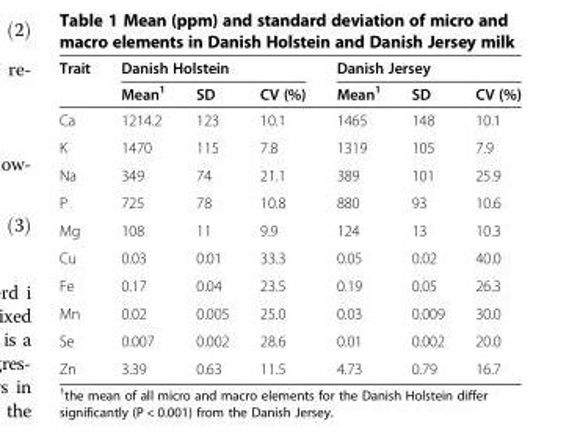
<table><thead><tr><td rowspan="2">Trait</td><td colspan="3">Danish Holstein</td><td colspan="3">Danish Jersey</td></tr><tr><td>Mean<sup>1</sup></td><td>SD</td><td>CV (%)</td><td>Mean<sup>1</sup></td><td>SD</td><td>CV (%)</td></tr></thead><tbody><tr><td>Ca</td><td>1214.2</td><td>123</td><td>10.1</td><td>1465</td><td>148</td><td>10.1</td></tr><tr><td>K</td><td>1470</td><td>115</td><td>7.8</td><td>1319</td><td>105</td><td>7.9</td></tr><tr><td>Na</td><td>349</td><td>74</td><td>21.1</td><td>389</td><td>101</td><td>25.9</td></tr><tr><td>P</td><td>725</td><td>78</td><td>10.8</td><td>880</td><td>93</td><td>10.6</td></tr><tr><td>Mg</td><td>108</td><td>11</td><td>9.9</td><td>124</td><td>13</td><td>10.3</td></tr><tr><td>Cu</td><td>0.03</td><td>0.01</td><td>33.3</td><td>0.05</td><td>0.02</td><td>40.0</td></tr><tr><td>Fe</td><td>0.17</td><td>0.04</td><td>23.5</td><td>0.19</td><td>0.05</td><td>26.3</td></tr><tr><td>Mn</td><td>0.02</td><td>0.005</td><td>25.0</td><td>0.03</td><td>0.009</td><td>30.0</td></tr><tr><td>Se</td><td>0.007</td><td>0.002</td><td>28.6</td><td>0.01</td><td>0.002</td><td>20.0</td></tr><tr><td>Zn</td><td>3.39</td><td>0.63</td><td>11.5</td><td>4.73</td><td>0.79</td><td>16.7</td></tr></tbody></table>